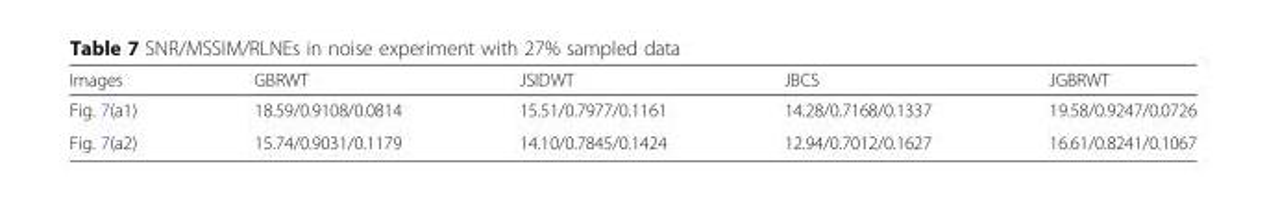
<table><thead><tr><td>Images</td><td>GBRWT</td><td>JSIDWT</td><td>JBCS</td><td>JGBRWT</td></tr></thead><tbody><tr><td>Fig. 7(a1)</td><td>18.59/0.9108/0.0814</td><td>15.51/0.7977/0.1161</td><td>14.28/0.7168/0.1337</td><td>19.58/0.9247/0.0726</td></tr><tr><td>Fig. 7(a2)</td><td>15.74/0.9031/0.1179</td><td>14.10/0.7845/0.1424</td><td>12.94/0.7012/0.1627</td><td>16.61/0.8241/0.1067</td></tr></tbody></table>